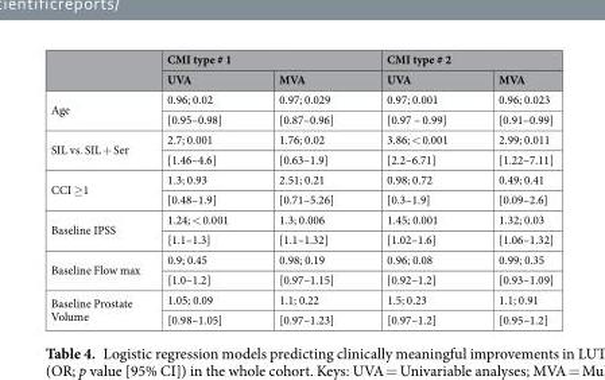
<table><thead><tr><td rowspan="2"></td><td colspan="2">CMI type # 1</td><td colspan="2">CMI type # 2</td></tr><tr><td>UVA</td><td>MVA</td><td>UVA</td><td>MVA</td></tr></thead><tbody><tr><td rowspan="2">Age</td><td>0.96; 0.02</td><td>0.97; 0.029</td><td>0.97; 0.001</td><td>0.96; 0.023</td></tr><tr><td>[0.95–0.98]</td><td>[0.87–0.96]</td><td>[0.97 – 0.99]</td><td>[0.91–0.99]</td></tr><tr><td rowspan="2">SIL vs. SIL + Ser</td><td>2.7; 0.001</td><td>1.76; 0.02</td><td>3.86; &lt; 0.001</td><td>2.99; 0.011</td></tr><tr><td>[1.46–4.6]</td><td>[0.63–1.9]</td><td>[2.2–6.71]</td><td>[1.22–7.11]</td></tr><tr><td rowspan="2">CCI ≥1</td><td>1.3; 0.93</td><td>2.51; 0.21</td><td>0.98; 0.72</td><td>0.49; 0.41</td></tr><tr><td>[0.48–1.9]</td><td>[0.71–5.26]</td><td>[0.3–1.9]</td><td>[0.09–2.6]</td></tr><tr><td rowspan="2">Baseline IPSS</td><td>1.24; &lt; 0.001</td><td>1.3; 0.006</td><td>1.45; 0.001</td><td>1.32; 0.03</td></tr><tr><td>[1.1–1.3]</td><td>[1.1–1.32]</td><td>[1.02–1.6]</td><td>[1.06–1.32]</td></tr><tr><td rowspan="2">Baseline Flow max</td><td>0.9; 0.45</td><td>0.98; 0.19</td><td>0.96; 0.08</td><td>0.99; 0.35</td></tr><tr><td>[1.0–1.2]</td><td>[0.97–1.15]</td><td>[0.92–1.2]</td><td>[0.93–1.09]</td></tr><tr><td rowspan="2">Baseline Prostate Volume</td><td>1.05; 0.09</td><td>1.1; 0.22</td><td>1.5; 0.23</td><td>1.1; 0.91</td></tr><tr><td>[0.98–1.05]</td><td>[0.97–1.23]</td><td>[0.97–1.2]</td><td>[0.95–1.2]</td></tr></tbody></table>